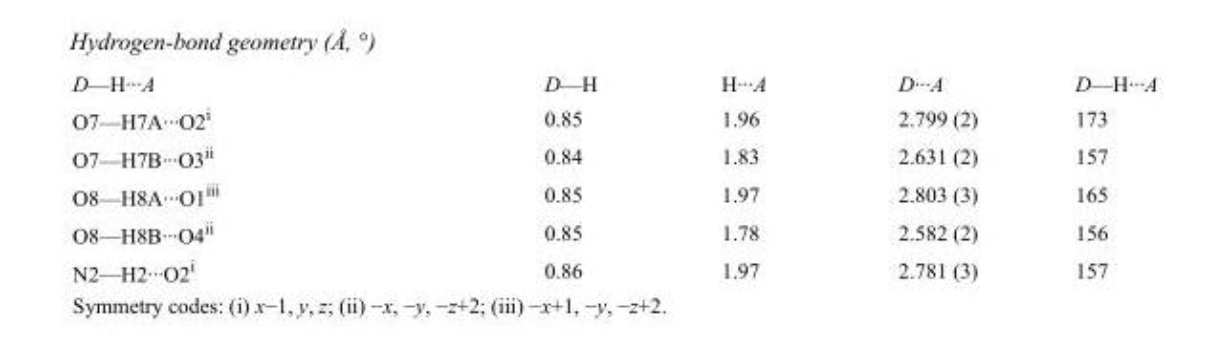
<table><tbody><tr><td>D—H···A</td><td>D—H</td><td>H···A</td><td>D···A</td><td>D—H···A</td></tr><tr><td>O7—H7A···O2<sup>i</sup></td><td>0.85</td><td>1.96</td><td>2.799 (2)</td><td>173</td></tr><tr><td>O7—H7B···O3<sup>ii</sup></td><td>0.84</td><td>1.83</td><td>2.631 (2)</td><td>157</td></tr><tr><td>O8—H8A···O1<sup>iii</sup></td><td>0.85</td><td>1.97</td><td>2.803 (3)</td><td>165</td></tr><tr><td>O8—H8B···O4<sup>ii</sup></td><td>0.85</td><td>1.78</td><td>2.582 (2)</td><td>156</td></tr><tr><td>N2—H2···O2<sup>i</sup></td><td>0.86</td><td>1.97</td><td>2.781 (3)</td><td>157</td></tr></tbody></table>